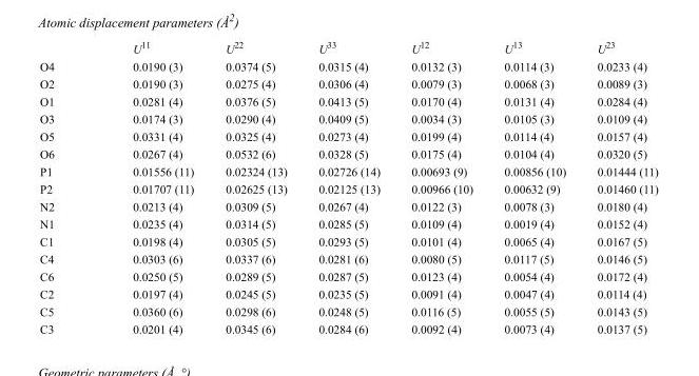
<table><thead><tr><td></td><td>U<sup>11</sup></td><td>U<sup>22</sup></td><td>U<sup>33</sup></td><td>U<sup>12</sup></td><td>U<sup>13</sup></td><td>U<sup>23</sup></td></tr></thead><tbody><tr><td>O4</td><td>0.0190 (3)</td><td>0.0374 (5)</td><td>0.0315 (4)</td><td>0.0132 (3)</td><td>0.0114 (3)</td><td>0.0233 (4)</td></tr><tr><td>O2</td><td>0.0190 (3)</td><td>0.0275 (4)</td><td>0.0306 (4)</td><td>0.0079 (3)</td><td>0.0068 (3)</td><td>0.0089 (3)</td></tr><tr><td>O1</td><td>0.0281 (4)</td><td>0.0376 (5)</td><td>0.0413 (5)</td><td>0.0170 (4)</td><td>0.0131 (4)</td><td>0.0284 (4)</td></tr><tr><td>O3</td><td>0.0174 (3)</td><td>0.0290 (4)</td><td>0.0409 (5)</td><td>0.0034 (3)</td><td>0.0105 (3)</td><td>0.0109 (4)</td></tr><tr><td>O5</td><td>0.0331 (4)</td><td>0.0325 (4)</td><td>0.0273 (4)</td><td>0.0199 (4)</td><td>0.0114 (4)</td><td>0.0157 (4)</td></tr><tr><td>O6</td><td>0.0267 (4)</td><td>0.0532 (6)</td><td>0.0328 (5)</td><td>0.0175 (4)</td><td>0.0104 (4)</td><td>0.0320 (5)</td></tr><tr><td>P1</td><td>0.01556 (11)</td><td>0.02324 (13)</td><td>0.02726 (14)</td><td>0.00693 (9)</td><td>0.00856 (10)</td><td>0.01444 (11)</td></tr><tr><td>P2</td><td>0.01707 (11)</td><td>0.02625 (13)</td><td>0.02125 (13)</td><td>0.00966 (10)</td><td>0.00632 (9)</td><td>0.01460 (11)</td></tr><tr><td>N2</td><td>0.0213 (4)</td><td>0.0309 (5)</td><td>0.0267 (4)</td><td>0.0122 (3)</td><td>0.0078 (3)</td><td>0.0180 (4)</td></tr><tr><td>N1</td><td>0.0235 (4)</td><td>0.0314 (5)</td><td>0.0285 (5)</td><td>0.0109 (4)</td><td>0.0019 (4)</td><td>0.0152 (4)</td></tr><tr><td>C1</td><td>0.0198 (4)</td><td>0.0305 (5)</td><td>0.0293 (5)</td><td>0.0101 (4)</td><td>0.0065 (4)</td><td>0.0167 (5)</td></tr><tr><td>C4</td><td>0.0303 (6)</td><td>0.0337 (6)</td><td>0.0281 (6)</td><td>0.0080 (5)</td><td>0.0117 (5)</td><td>0.0146 (5)</td></tr><tr><td>C6</td><td>0.0250 (5)</td><td>0.0289 (5)</td><td>0.0287 (5)</td><td>0.0123 (4)</td><td>0.0054 (4)</td><td>0.0172 (4)</td></tr><tr><td>C2</td><td>0.0197 (4)</td><td>0.0245 (5)</td><td>0.0235 (5)</td><td>0.0091 (4)</td><td>0.0047 (4)</td><td>0.0114 (4)</td></tr><tr><td>C5</td><td>0.0360 (6)</td><td>0.0298 (6)</td><td>0.0248 (5)</td><td>0.0116 (5)</td><td>0.0055 (5)</td><td>0.0143 (5)</td></tr><tr><td>C3</td><td>0.0201 (4)</td><td>0.0345 (6)</td><td>0.0284 (6)</td><td>0.0092 (4)</td><td>0.0073 (4)</td><td>0.0137 (5)</td></tr></tbody></table>